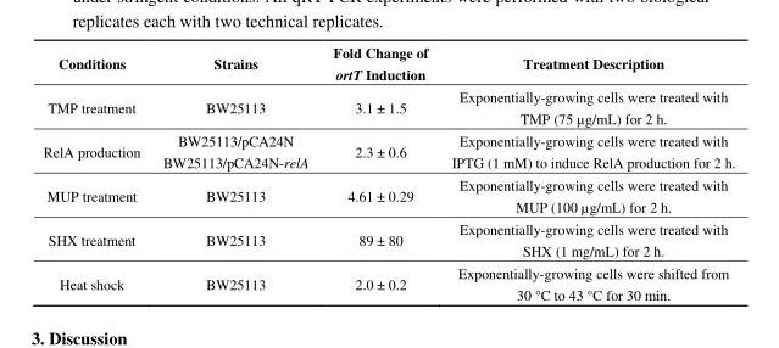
<table><thead><tr><td>Conditions</td><td>Strains</td><td>Fold Change of ortT Induction</td><td>Treatment Description</td></tr></thead><tbody><tr><td>TMP treatment</td><td>BW25113</td><td>3.1 ± 1.5</td><td>Exponentially-growing cells were treated with TMP (75 µg/mL) for 2 h.</td></tr><tr><td>RelA production</td><td>BW25113/pCA24N BW25113/pCA24N-relA</td><td>2.3 ± 0.6</td><td>Exponentially-growing cells were treated with IPTG (1 mM) to induce RelA production for 2 h.</td></tr><tr><td>MUP treatment</td><td>BW25113</td><td>4.61 ± 0.29</td><td>Exponentially-growing cells were treated with MUP (100 µg/mL) for 2 h.</td></tr><tr><td>SHX treatment</td><td>BW25113</td><td>89 ± 80</td><td>Exponentially-growing cells were treated with SHX (1 mg/mL) for 2 h.</td></tr><tr><td>Heat shock</td><td>BW25113</td><td>2.0 ± 0.2</td><td>Exponentially-growing cells were shifted from 30 °C to 43 °C for 30 min.</td></tr></tbody></table>